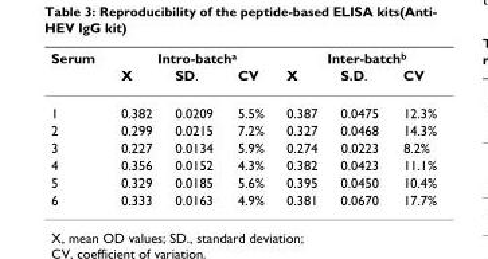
<table><thead><tr><td rowspan="2">Serum</td><td colspan="3">Intro-batch<sup>a</sup></td><td colspan="3">Inter-batch<sup>b</sup></td></tr><tr><td>X</td><td>SD.</td><td>CV</td><td>X</td><td>S.D.</td><td>CV</td></tr></thead><tbody><tr><td>1</td><td>0.382</td><td>0.0209</td><td>5.5%</td><td>0.387</td><td>0.0475</td><td>12.3%</td></tr><tr><td>2</td><td>0.299</td><td>0.0215</td><td>7.2%</td><td>0.327</td><td>0.0468</td><td>14.3%</td></tr><tr><td>3</td><td>0.227</td><td>0.0134</td><td>5.9%</td><td>0.274</td><td>0.0223</td><td>8.2%</td></tr><tr><td>4</td><td>0.356</td><td>0.0152</td><td>4.3%</td><td>0.382</td><td>0.0423</td><td>11.1%</td></tr><tr><td>5</td><td>0.329</td><td>0.0185</td><td>5.6%</td><td>0.395</td><td>0.0450</td><td>10.4%</td></tr><tr><td>6</td><td>0.333</td><td>0.0163</td><td>4.9%</td><td>0.381</td><td>0.0670</td><td>17.7%</td></tr></tbody></table>